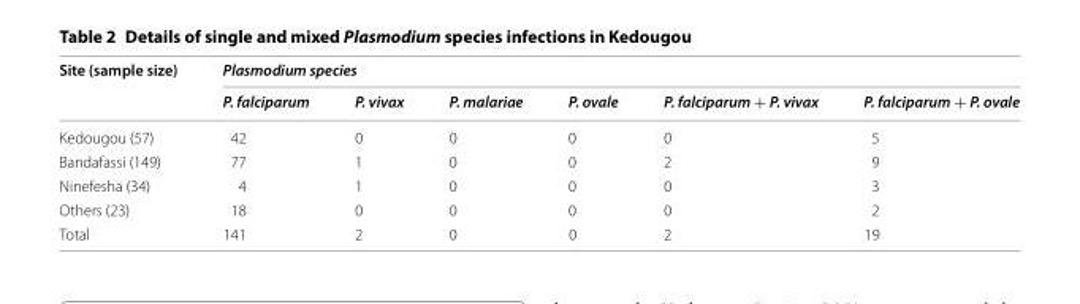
<table><thead><tr><td rowspan="2">Site (sample size)</td><td colspan="6">Plasmodium species</td></tr><tr><td>P. falciparum</td><td>P. vivax</td><td>P. malariae</td><td>P. ovale</td><td>P. falciparum + P. vivax</td><td>P. falciparum + P. ovale</td></tr></thead><tbody><tr><td>Kedougou (57)</td><td>42</td><td>0</td><td>0</td><td>0</td><td>0</td><td>5</td></tr><tr><td>Bandafassi (149)</td><td>77</td><td>1</td><td>0</td><td>0</td><td>2</td><td>9</td></tr><tr><td>Ninefesha (34)</td><td>4</td><td>1</td><td>0</td><td>0</td><td>0</td><td>3</td></tr><tr><td>Others (23)</td><td>18</td><td>0</td><td>0</td><td>0</td><td>0</td><td>2</td></tr><tr><td>Total</td><td>141</td><td>2</td><td>0</td><td>0</td><td>2</td><td>19</td></tr></tbody></table>